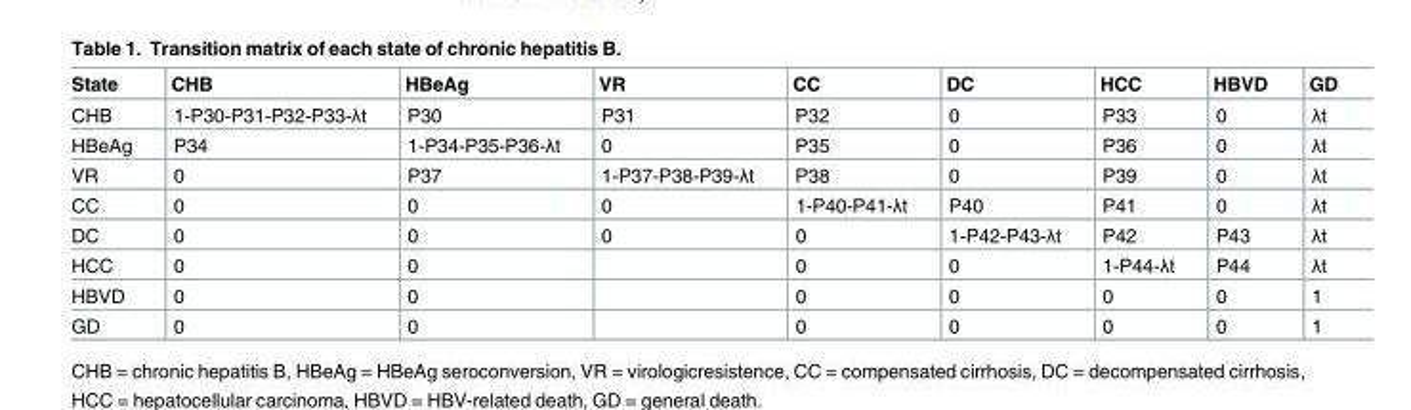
<table><thead><tr><td>State</td><td>CHB</td><td>HBeAg</td><td>VR</td><td>CC</td><td>DC</td><td>HCC</td><td>HBVD</td><td>GD</td></tr></thead><tbody><tr><td>CHB</td><td>1-P30-P31-P32-P33-λt</td><td>P30</td><td>P31</td><td>P32</td><td>0</td><td>P33</td><td>0</td><td>λt</td></tr><tr><td>HBeAg</td><td>P34</td><td>1-P34-P35-P36-λt</td><td>0</td><td>P35</td><td>0</td><td>P36</td><td>0</td><td>λt</td></tr><tr><td>VR</td><td>0</td><td>P37</td><td>1-P37-P38-P39-λt</td><td>P38</td><td>0</td><td>P39</td><td>0</td><td>λt</td></tr><tr><td>CC</td><td>0</td><td>0</td><td>0</td><td>1-P40-P41-λt</td><td>P40</td><td>P41</td><td>0</td><td>λt</td></tr><tr><td>DC</td><td>0</td><td>0</td><td>0</td><td>0</td><td>1-P42-P43-λt</td><td>P42</td><td>P43</td><td>λt</td></tr><tr><td>HCC</td><td>0</td><td>0</td><td></td><td>0</td><td>0</td><td>1-P44-λt</td><td>P44</td><td>λt</td></tr><tr><td>HBVD</td><td>0</td><td>0</td><td></td><td>0</td><td>0</td><td>0</td><td>0</td><td>1</td></tr><tr><td>GD</td><td>0</td><td>0</td><td></td><td>0</td><td>0</td><td>0</td><td>0</td><td>1</td></tr></tbody></table>